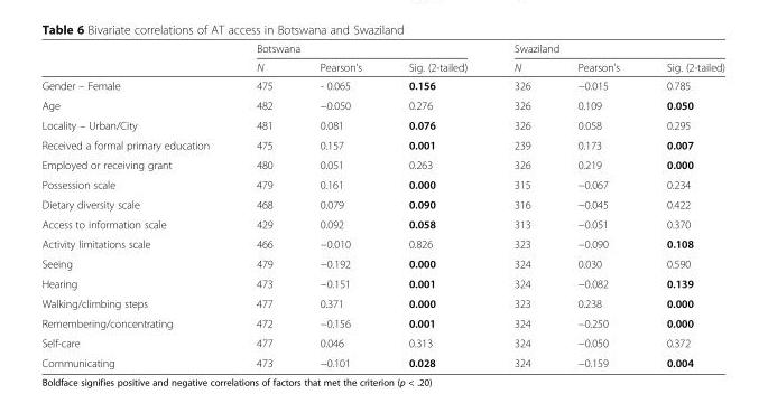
<table><thead><tr><td rowspan="2"></td><td colspan="3">Botswana</td><td colspan="3">Swaziland</td></tr><tr><td>N</td><td>Pearson’s</td><td>Sig. (2-tailed)</td><td>N</td><td>Pearson’s</td><td>Sig. (2-tailed)</td></tr></thead><tbody><tr><td>Gender – Female</td><td>475</td><td>- 0.065</td><td>0.156</td><td>326</td><td>−0.015</td><td>0.785</td></tr><tr><td>Age</td><td>482</td><td>−0.050</td><td>0.276</td><td>326</td><td>0.109</td><td>0.050</td></tr><tr><td>Locality – Urban/City</td><td>481</td><td>0.081</td><td>0.076</td><td>326</td><td>0.058</td><td>0.295</td></tr><tr><td>Received a formal primary education</td><td>475</td><td>0.157</td><td>0.001</td><td>239</td><td>0.173</td><td>0.007</td></tr><tr><td>Employed or receiving grant</td><td>480</td><td>0.051</td><td>0.263</td><td>326</td><td>0.219</td><td>0.000</td></tr><tr><td>Possession scale</td><td>479</td><td>0.161</td><td>0.000</td><td>315</td><td>−0.067</td><td>0.234</td></tr><tr><td>Dietary diversity scale</td><td>468</td><td>0.079</td><td>0.090</td><td>316</td><td>−0.045</td><td>0.422</td></tr><tr><td>Access to information scale</td><td>429</td><td>0.092</td><td>0.058</td><td>313</td><td>−0.051</td><td>0.370</td></tr><tr><td>Activity limitations scale</td><td>466</td><td>−0.010</td><td>0.826</td><td>323</td><td>−0.090</td><td>0.108</td></tr><tr><td>Seeing</td><td>479</td><td>−0.192</td><td>0.000</td><td>324</td><td>0.030</td><td>0.590</td></tr><tr><td>Hearing</td><td>473</td><td>−0.151</td><td>0.001</td><td>324</td><td>−0.082</td><td>0.139</td></tr><tr><td>Walking/climbing steps</td><td>477</td><td>0.371</td><td>0.000</td><td>323</td><td>0.238</td><td>0.000</td></tr><tr><td>Remembering/concentrating</td><td>472</td><td>−0.156</td><td>0.001</td><td>324</td><td>−0.250</td><td>0.000</td></tr><tr><td>Self-care</td><td>477</td><td>0.046</td><td>0.313</td><td>324</td><td>−0.050</td><td>0.372</td></tr><tr><td>Communicating</td><td>473</td><td>−0.101</td><td>0.028</td><td>324</td><td>−0.159</td><td>0.004</td></tr></tbody></table>